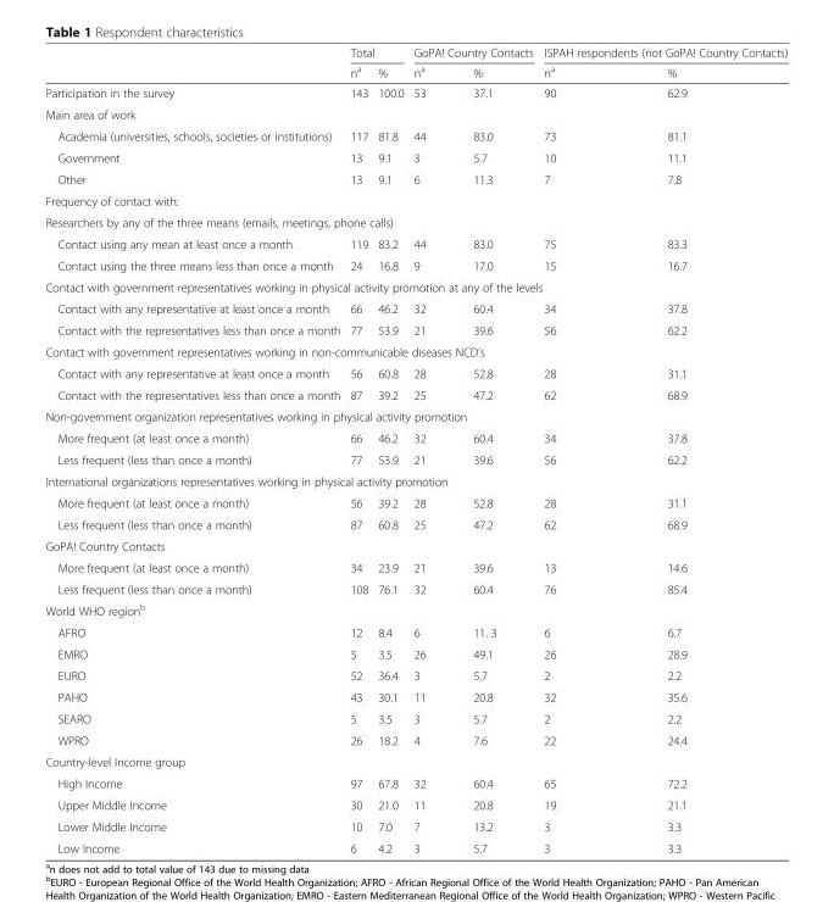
<table><thead><tr><td rowspan="2"></td><td colspan="2">Total</td><td colspan="2">GoPA! Country Contacts</td><td colspan="2">ISPAH respondents (not GoPA! Country Contacts)</td></tr><tr><td>n<sup>a</sup></td><td>%</td><td>n<sup>a</sup></td><td>%</td><td>n<sup>a</sup></td><td>%</td></tr></thead><tbody><tr><td>Participation in the survey</td><td>143</td><td>100.0</td><td>53</td><td>37.1</td><td>90</td><td>62.9</td></tr><tr><td colspan="7">Main area of work</td></tr><tr><td>Academia (universities, schools, societies or institutions)</td><td>117</td><td>81.8</td><td>44</td><td>83.0</td><td>73</td><td>81.1</td></tr><tr><td>Government</td><td>13</td><td>9.1</td><td>3</td><td>5.7</td><td>10</td><td>11.1</td></tr><tr><td>Other</td><td>13</td><td>9.1</td><td>6</td><td>11.3</td><td>7</td><td>7.8</td></tr><tr><td colspan="7">Frequency of contact with:</td></tr><tr><td colspan="7">Researchers by any of the three means (emails, meetings, phone calls)</td></tr><tr><td>Contact using any mean at least once a month</td><td>119</td><td>83.2</td><td>44</td><td>83.0</td><td>75</td><td>83.3</td></tr><tr><td>Contact using the three means less than once a month</td><td>24</td><td>16.8</td><td>9</td><td>17.0</td><td>15</td><td>16.7</td></tr><tr><td colspan="7">Contact with government representatives working in physical activity promotion at any of the levels</td></tr><tr><td>Contact with any representative at least once a month</td><td>66</td><td>46.2</td><td>32</td><td>60.4</td><td>34</td><td>37.8</td></tr><tr><td>Contact with the representatives less than once a month</td><td>77</td><td>53.9</td><td>21</td><td>39.6</td><td>56</td><td>62.2</td></tr><tr><td colspan="7">Contact with government representatives working in non-communicable diseases NCD’s</td></tr><tr><td>Contact with any representative at least once a month</td><td>56</td><td>60.8</td><td>28</td><td>52.8</td><td>28</td><td>31.1</td></tr><tr><td>Contact with the representatives less than once a month</td><td>87</td><td>39.2</td><td>25</td><td>47.2</td><td>62</td><td>68.9</td></tr><tr><td colspan="7">Non-government organization representatives working in physical activity promotion</td></tr><tr><td>More frequent (at least once a month)</td><td>66</td><td>46.2</td><td>32</td><td>60.4</td><td>34</td><td>37.8</td></tr><tr><td>Less frequent (less than once a month)</td><td>77</td><td>53.9</td><td>21</td><td>39.6</td><td>56</td><td>62.2</td></tr><tr><td colspan="7">International organizations representatives working in physical activity promotion</td></tr><tr><td>More frequent (at least once a month)</td><td>56</td><td>39.2</td><td>28</td><td>52.8</td><td>28</td><td>31.1</td></tr><tr><td>Less frequent (less than once a month)</td><td>87</td><td>60.8</td><td>25</td><td>47.2</td><td>62</td><td>68.9</td></tr><tr><td colspan="7">GoPA! Country Contacts</td></tr><tr><td>More frequent (at least once a month)</td><td>34</td><td>23.9</td><td>21</td><td>39.6</td><td>13</td><td>14.6</td></tr><tr><td>Less frequent (less than once a month)</td><td>108</td><td>76.1</td><td>32</td><td>60.4</td><td>76</td><td>85.4</td></tr><tr><td colspan="7">World WHO region<sup>b</sup></td></tr><tr><td>AFRO</td><td>12</td><td>8.4</td><td>6</td><td>11. 3</td><td>6</td><td>6.7</td></tr><tr><td>EMRO</td><td>5</td><td>3.5</td><td>26</td><td>49.1</td><td>26</td><td>28.9</td></tr><tr><td>EURO</td><td>52</td><td>36.4</td><td>3</td><td>5.7</td><td>2</td><td>2.2</td></tr><tr><td>PAHO</td><td>43</td><td>30.1</td><td>11</td><td>20.8</td><td>32</td><td>35.6</td></tr><tr><td>SEARO</td><td>5</td><td>3.5</td><td>3</td><td>5.7</td><td>2</td><td>2.2</td></tr><tr><td>WPRO</td><td>26</td><td>18.2</td><td>4</td><td>7.6</td><td>22</td><td>24.4</td></tr><tr><td colspan="7">Country-level Income group</td></tr><tr><td>High Income</td><td>97</td><td>67.8</td><td>32</td><td>60.4</td><td>65</td><td>72.2</td></tr><tr><td>Upper Middle Income</td><td>30</td><td>21.0</td><td>11</td><td>20.8</td><td>19</td><td>21.1</td></tr><tr><td>Lower Middle Income</td><td>10</td><td>7.0</td><td>7</td><td>13.2</td><td>3</td><td>3.3</td></tr><tr><td>Low Income</td><td>6</td><td>4.2</td><td>3</td><td>5.7</td><td>3</td><td>3.3</td></tr></tbody></table>